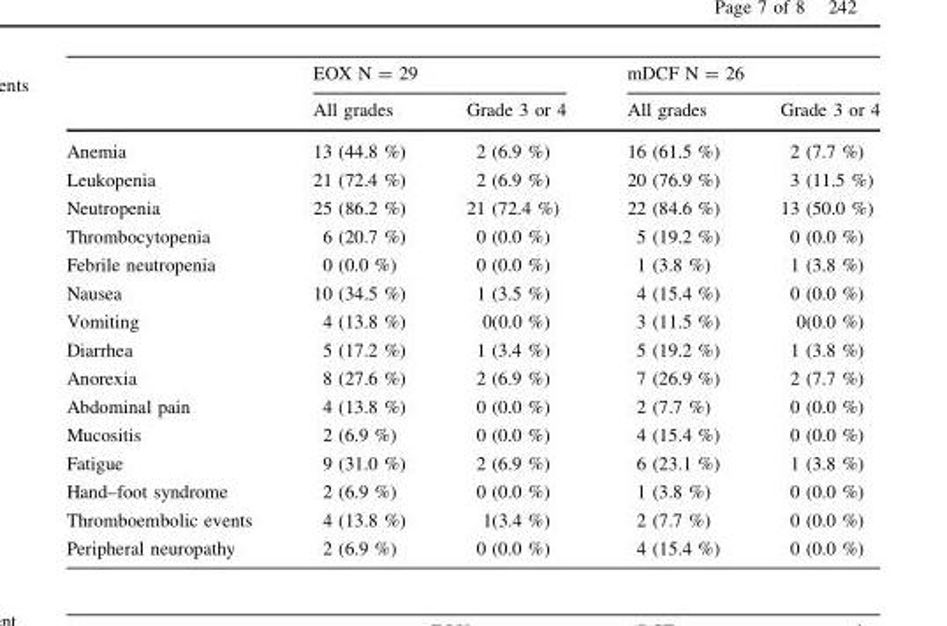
<table><thead><tr><td rowspan="2"></td><td colspan="2">EOX N = 29</td><td colspan="2">mDCF N = 26</td></tr><tr><td>All grades</td><td>Grade 3 or 4</td><td>All grades</td><td>Grade 3 or 4</td></tr></thead><tbody><tr><td>Anemia</td><td>13 (44.8 %)</td><td>2 (6.9 %)</td><td>16 (61.5 %)</td><td>2 (7.7 %)</td></tr><tr><td>Leukopenia</td><td>21 (72.4 %)</td><td>2 (6.9 %)</td><td>20 (76.9 %)</td><td>3 (11.5 %)</td></tr><tr><td>Neutropenia</td><td>25 (86.2 %)</td><td>21 (72.4 %)</td><td>22 (84.6 %)</td><td>13 (50.0 %)</td></tr><tr><td>Thrombocytopenia</td><td>6 (20.7 %)</td><td>0 (0.0 %)</td><td>5 (19.2 %)</td><td>0 (0.0 %)</td></tr><tr><td>Febrile neutropenia</td><td>0 (0.0 %)</td><td>0 (0.0 %)</td><td>1 (3.8 %)</td><td>1 (3.8 %)</td></tr><tr><td>Nausea</td><td>10 (34.5 %)</td><td>1 (3.5 %)</td><td>4 (15.4 %)</td><td>0 (0.0 %)</td></tr><tr><td>Vomiting</td><td>4 (13.8 %)</td><td>0(0.0 %)</td><td>3 (11.5 %)</td><td>0(0.0 %)</td></tr><tr><td>Diarrhea</td><td>5 (17.2 %)</td><td>1 (3.4 %)</td><td>5 (19.2 %)</td><td>1 (3.8 %)</td></tr><tr><td>Anorexia</td><td>8 (27.6 %)</td><td>2 (6.9 %)</td><td>7 (26.9 %)</td><td>2 (7.7 %)</td></tr><tr><td>Abdominal pain</td><td>4 (13.8 %)</td><td>0 (0.0 %)</td><td>2 (7.7 %)</td><td>0 (0.0 %)</td></tr><tr><td>Mucositis</td><td>2 (6.9 %)</td><td>0 (0.0 %)</td><td>4 (15.4 %)</td><td>0 (0.0 %)</td></tr><tr><td>Fatigue</td><td>9 (31.0 %)</td><td>2 (6.9 %)</td><td>6 (23.1 %)</td><td>1 (3.8 %)</td></tr><tr><td>Hand–foot syndrome</td><td>2 (6.9 %)</td><td>0 (0.0 %)</td><td>1 (3.8 %)</td><td>0 (0.0 %)</td></tr><tr><td>Thromboembolic events</td><td>4 (13.8 %)</td><td>1(3.4 %)</td><td>2 (7.7 %)</td><td>0 (0.0 %)</td></tr><tr><td>Peripheral neuropathy</td><td>2 (6.9 %)</td><td>0 (0.0 %)</td><td>4 (15.4 %)</td><td>0 (0.0 %)</td></tr></tbody></table>